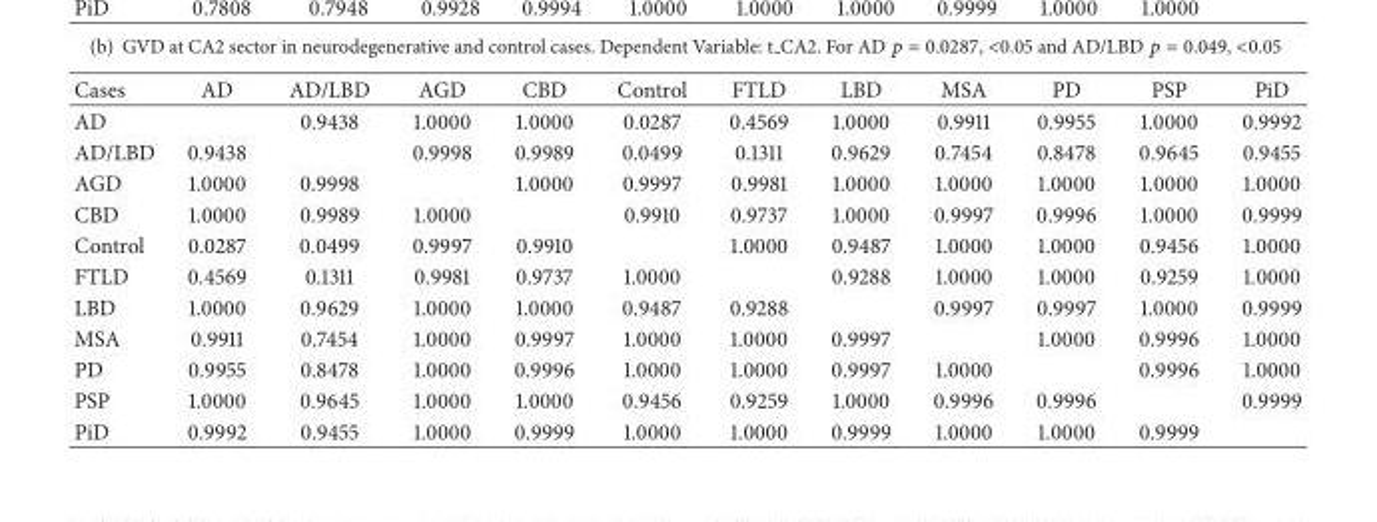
<table><thead><tr><td>Cases</td><td>AD</td><td>AD/LBD</td><td>AGD</td><td>CBD</td><td>Control</td><td>FTLD</td><td>LBD</td><td>MSA</td><td>PD</td><td>PSP</td><td>PiD</td></tr></thead><tbody><tr><td>AD</td><td></td><td>0.9438</td><td>1.0000</td><td>1.0000</td><td>0.0287</td><td>0.4569</td><td>1.0000</td><td>0.9911</td><td>0.9955</td><td>1.0000</td><td>0.9992</td></tr><tr><td>AD/LBD</td><td>0.9438</td><td></td><td>0.9998</td><td>0.9989</td><td>0.0499</td><td>0.1311</td><td>0.9629</td><td>0.7454</td><td>0.8478</td><td>0.9645</td><td>0.9455</td></tr><tr><td>AGD</td><td>1.0000</td><td>0.9998</td><td></td><td>1.0000</td><td>0.9997</td><td>0.9981</td><td>1.0000</td><td>1.0000</td><td>1.0000</td><td>1.0000</td><td>1.0000</td></tr><tr><td>CBD</td><td>1.0000</td><td>0.9989</td><td>1.0000</td><td></td><td>0.9910</td><td>0.9737</td><td>1.0000</td><td>0.9997</td><td>0.9996</td><td>1.0000</td><td>0.9999</td></tr><tr><td>Control</td><td>0.0287</td><td>0.0499</td><td>0.9997</td><td>0.9910</td><td></td><td>1.0000</td><td>0.9487</td><td>1.0000</td><td>1.0000</td><td>0.9456</td><td>1.0000</td></tr><tr><td>FTLD</td><td>0.4569</td><td>0.1311</td><td>0.9981</td><td>0.9737</td><td>1.0000</td><td></td><td>0.9288</td><td>1.0000</td><td>1.0000</td><td>0.9259</td><td>1.0000</td></tr><tr><td>LBD</td><td>1.0000</td><td>0.9629</td><td>1.0000</td><td>1.0000</td><td>0.9487</td><td>0.9288</td><td></td><td>0.9997</td><td>0.9997</td><td>1.0000</td><td>0.9999</td></tr><tr><td>MSA</td><td>0.9911</td><td>0.7454</td><td>1.0000</td><td>0.9997</td><td>1.0000</td><td>1.0000</td><td>0.9997</td><td></td><td>1.0000</td><td>0.9996</td><td>1.0000</td></tr><tr><td>PD</td><td>0.9955</td><td>0.8478</td><td>1.0000</td><td>0.9996</td><td>1.0000</td><td>1.0000</td><td>0.9997</td><td>1.0000</td><td></td><td>0.9996</td><td>1.0000</td></tr><tr><td>PSP</td><td>1.0000</td><td>0.9645</td><td>1.0000</td><td>1.0000</td><td>0.9456</td><td>0.9259</td><td>1.0000</td><td>0.9996</td><td>0.9996</td><td></td><td>0.9999</td></tr><tr><td>PiD</td><td>0.9992</td><td>0.9455</td><td>1.0000</td><td>0.9999</td><td>1.0000</td><td>1.0000</td><td>0.9999</td><td>1.0000</td><td>1.0000</td><td>0.9999</td><td></td></tr></tbody></table>